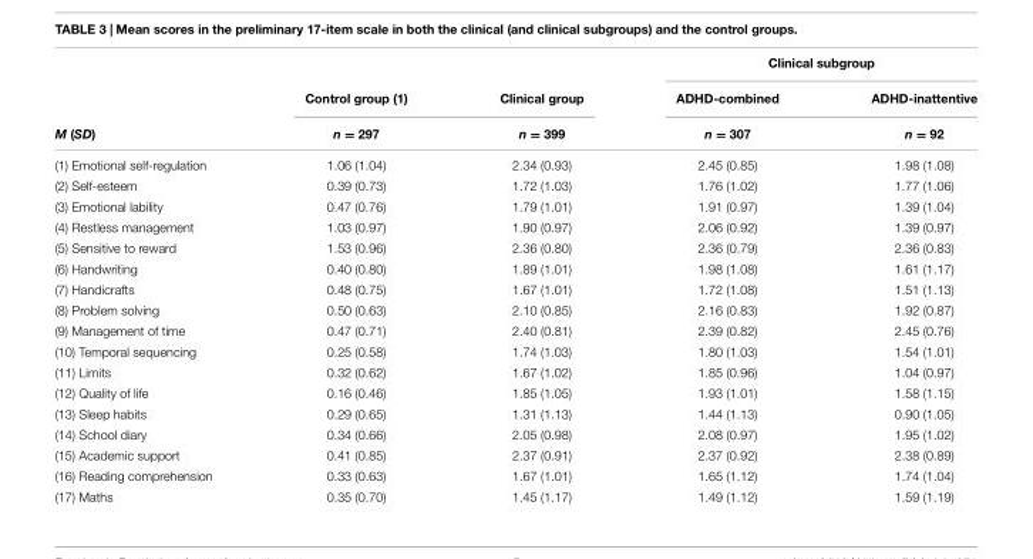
<table><thead><tr><td rowspan="3">M (SD)</td><td rowspan="3">Control group (1) n = 297</td><td rowspan="3">Clinical group n = 399</td><td colspan="2">Clinical subgroup</td></tr><tr><td rowspan="2">ADHD-combined n = 307</td><td rowspan="2">ADHD-inattentive n = 92</td></tr><tr></tr></thead><tbody><tr><td>(1) Emotional self-regulation</td><td>1.06 (1.04)</td><td>2.34 (0.93)</td><td>2.45 (0.85)</td><td>1.98 (1.08)</td></tr><tr><td>(2) Self-esteem</td><td>0.39 (0.73)</td><td>1.72 (1.03)</td><td>1.76 (1.02)</td><td>1.77 (1.06)</td></tr><tr><td>(3) Emotional lability</td><td>0.47 (0.76)</td><td>1.79 (1.01)</td><td>1.91 (0.97)</td><td>1.39 (1.04)</td></tr><tr><td>(4) Restless management</td><td>1.03 (0.97)</td><td>1.90 (0.97)</td><td>2.06 (0.92)</td><td>1.39 (0.97)</td></tr><tr><td>(5) Sensitive to reward</td><td>1.53 (0.96)</td><td>2.36 (0.80)</td><td>2.36 (0.79)</td><td>2.36 (0.83)</td></tr><tr><td>(6) Handwriting</td><td>0.40 (0.80)</td><td>1.89 (1.01)</td><td>1.98 (1.08)</td><td>1.61 (1.17)</td></tr><tr><td>(7) Handicrafts</td><td>0.48 (0.75)</td><td>1.67 (1.01)</td><td>1.72 (1.08)</td><td>1.51 (1.13)</td></tr><tr><td>(8) Problem solving</td><td>0.50 (0.63)</td><td>2.10 (0.85)</td><td>2.16 (0.83)</td><td>1.92 (0.87)</td></tr><tr><td>(9) Management of time</td><td>0.47 (0.71)</td><td>2.40 (0.81)</td><td>2.39 (0.82)</td><td>2.45 (0.76)</td></tr><tr><td>(10) Temporal sequencing</td><td>0.25 (0.58)</td><td>1.74 (1.03)</td><td>1.80 (1.03)</td><td>1.54 (1.01)</td></tr><tr><td>(11) Limits</td><td>0.32 (0.62)</td><td>1.67 (1.02)</td><td>1.85 (0.96)</td><td>1.04 (0.97)</td></tr><tr><td>(12) Quality of life</td><td>0.16 (0.46)</td><td>1.85 (1.05)</td><td>1.93 (1.01)</td><td>1.58 (1.15)</td></tr><tr><td>(13) Sleep habits</td><td>0.29 (0.65)</td><td>1.31 (1.13)</td><td>1.44 (1.13)</td><td>0.90 (1.05)</td></tr><tr><td>(14) School diary</td><td>0.34 (0.66)</td><td>2.05 (0.98)</td><td>2.08 (0.97)</td><td>1.95 (1.02)</td></tr><tr><td>(15) Academic support</td><td>0.41 (0.85)</td><td>2.37 (0.91)</td><td>2.37 (0.92)</td><td>2.38 (0.89)</td></tr><tr><td>(16) Reading comprehension</td><td>0.33 (0.63)</td><td>1.67 (1.01)</td><td>1.65 (1.12)</td><td>1.74 (1.04)</td></tr><tr><td>(17) Maths</td><td>0.35 (0.70)</td><td>1.45 (1.17)</td><td>1.49 (1.12)</td><td>1.59 (1.19)</td></tr></tbody></table>